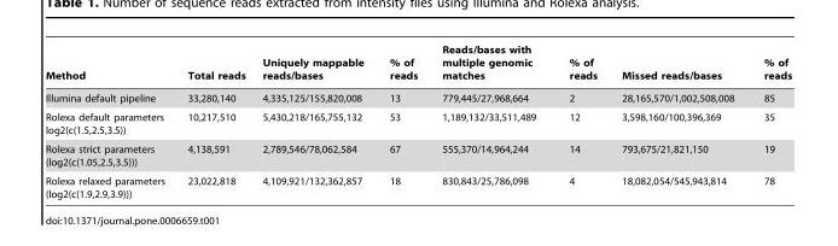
<table><thead><tr><td>Method</td><td>Total reads</td><td>Uniquely mappable reads/bases</td><td>% of reads</td><td>Reads/bases with multiple genomic matches</td><td>% of reads</td><td>Missed reads/bases</td><td>% of reads</td></tr></thead><tbody><tr><td>Illumina default pipeline</td><td>33,280,140</td><td>4,335,125/155,820,008</td><td>13</td><td>779,445/27,968,664</td><td>2</td><td>28,165,570/1,002,508,008</td><td>85</td></tr><tr><td>Rolexa default parameters log2(c(1.5,2.5,3.5))</td><td>10,217,510</td><td>5,430,218/165,755,132</td><td>53</td><td>1,189,132/33,511,489</td><td>12</td><td>3,598,160/100,396,369</td><td>35</td></tr><tr><td>Rolexa strict parameters (log2(c(1.05,2.5,3.5)))</td><td>4,138,591</td><td>2,789,546/78,062,584</td><td>67</td><td>555,370/14,964,244</td><td>14</td><td>793,675/21,821,150</td><td>19</td></tr><tr><td>Rolexa relaxed parameters (log2(c(1.9,2.9,3.9)))</td><td>23,022,818</td><td>4,109,921/132,362,857</td><td>18</td><td>830,843/25,786,098</td><td>4</td><td>18,082,054/545,943,814</td><td>78</td></tr></tbody></table>